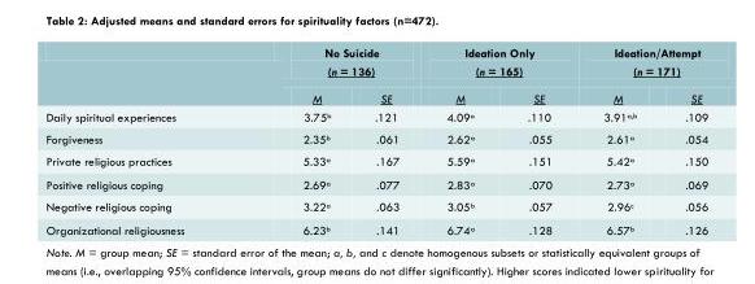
<table><thead><tr><td rowspan="2"></td><td colspan="2">No Suicide (n = 136)</td><td colspan="2">Ideation Only (n = 165)</td><td colspan="2">Ideation/Attempt (n = 171)</td></tr><tr><td>M</td><td>SE</td><td>M</td><td>SE</td><td>M</td><td>SE</td></tr></thead><tbody><tr><td>Daily spiritual experiences</td><td>3.75<sup>b</sup></td><td>.121</td><td>4.09<sup>a</sup></td><td>.110</td><td>3.91<sup>a,b</sup></td><td>.109</td></tr><tr><td>Forgiveness</td><td>2.35<sup>b</sup></td><td>.061</td><td>2.62<sup>a</sup></td><td>.055</td><td>2.61<sup>a</sup></td><td>.054</td></tr><tr><td>Private religious practices</td><td>5.33<sup>a</sup></td><td>.167</td><td>5.59<sup>a</sup></td><td>.151</td><td>5.42<sup>a</sup></td><td>.150</td></tr><tr><td>Positive religious coping</td><td>2.69<sup>a</sup></td><td>.077</td><td>2.83<sup>a</sup></td><td>.070</td><td>2.73<sup>a</sup></td><td>.069</td></tr><tr><td>Negative religious coping</td><td>3.22<sup>a</sup></td><td>.063</td><td>3.05<sup>b</sup></td><td>.057</td><td>2.96<sup>c</sup></td><td>.056</td></tr><tr><td>Organizational religiousness</td><td>6.23<sup>b</sup></td><td>.141</td><td>6.74<sup>a</sup></td><td>.128</td><td>6.57<sup>b</sup></td><td>.126</td></tr></tbody></table>